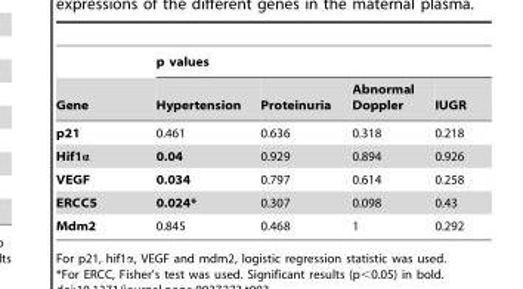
<table><thead><tr><td rowspan="2">Gene</td><td colspan="4">p values</td></tr><tr><td>Hypertension</td><td>Proteinuria</td><td>Abnormal Doppler</td><td>IUGR</td></tr></thead><tbody><tr><td>p21</td><td>0.461</td><td>0.636</td><td>0.318</td><td>0.218</td></tr><tr><td>Hif1α</td><td>0.04</td><td>0.929</td><td>0.894</td><td>0.926</td></tr><tr><td>VEGF</td><td>0.034</td><td>0.797</td><td>0.614</td><td>0.258</td></tr><tr><td>ERCC5</td><td>0.024*</td><td>0.307</td><td>0.098</td><td>0.43</td></tr><tr><td>Mdm2</td><td>0.845</td><td>0.468</td><td>1</td><td>0.292</td></tr></tbody></table>